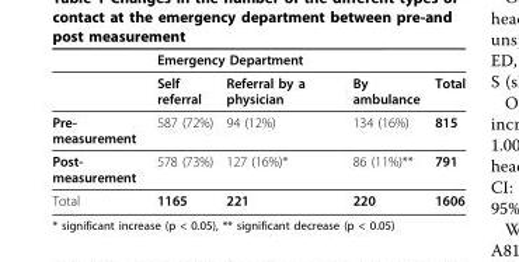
<table><thead><tr><td rowspan="2"></td><td colspan="4">Emergency Department</td></tr><tr><td>Self referral</td><td>Referral by a physician</td><td>By ambulance</td><td>Total</td></tr></thead><tbody><tr><td>Pre- measurement</td><td>587 (72%)</td><td>94 (12%)</td><td>134 (16%)</td><td>815</td></tr><tr><td>Post- measurement</td><td>578 (73%)</td><td>127 (16%)*</td><td>86 (11%)**</td><td>791</td></tr><tr><td>Total</td><td>1165</td><td>221</td><td>220</td><td>1606</td></tr></tbody></table>